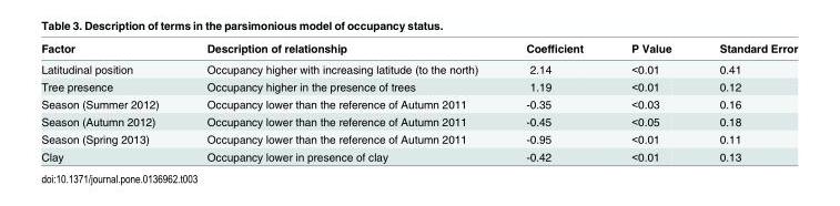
<table><thead><tr><td>Factor</td><td>Description of relationship</td><td>Coefficient</td><td>P Value</td><td>Standard Error</td></tr></thead><tbody><tr><td>Latitudinal position</td><td>Occupancy higher with increasing latitude (to the north)</td><td>2.14</td><td>&lt;0.01</td><td>0.41</td></tr><tr><td>Tree presence</td><td>Occupancy higher in the presence of trees</td><td>1.19</td><td>&lt;0.01</td><td>0.12</td></tr><tr><td>Season (Summer 2012)</td><td>Occupancy lower than the reference of Autumn 2011</td><td>-0.35</td><td>&lt;0.03</td><td>0.16</td></tr><tr><td>Season (Autumn 2012)</td><td>Occupancy lower than the reference of Autumn 2011</td><td>-0.45</td><td>&lt;0.05</td><td>0.18</td></tr><tr><td>Season (Spring 2013)</td><td>Occupancy lower than the reference of Autumn 2011</td><td>-0.95</td><td>&lt;0.01</td><td>0.11</td></tr><tr><td>Clay</td><td>Occupancy lower in presence of clay</td><td>-0.42</td><td>&lt;0.01</td><td>0.13</td></tr></tbody></table>